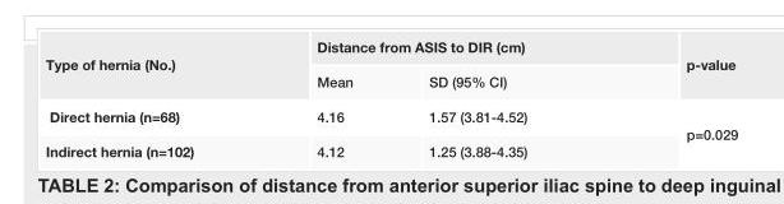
<table><tbody><tr><td rowspan="2">Type of hernia (No.)</td><td colspan="2">Distance from ASIS to DIR (cm)</td><td rowspan="2">p-value</td></tr><tr><td>Mean</td><td>SD (95% CI)</td></tr><tr><td>Direct hernia (n=68)</td><td>4.16</td><td>1.57 (3.81-4.52)</td><td rowspan="2">p=0.029</td></tr><tr><td>Indirect hernia (n=102)</td><td>4.12</td><td>1.25 (3.88-4.35)</td></tr></tbody></table>